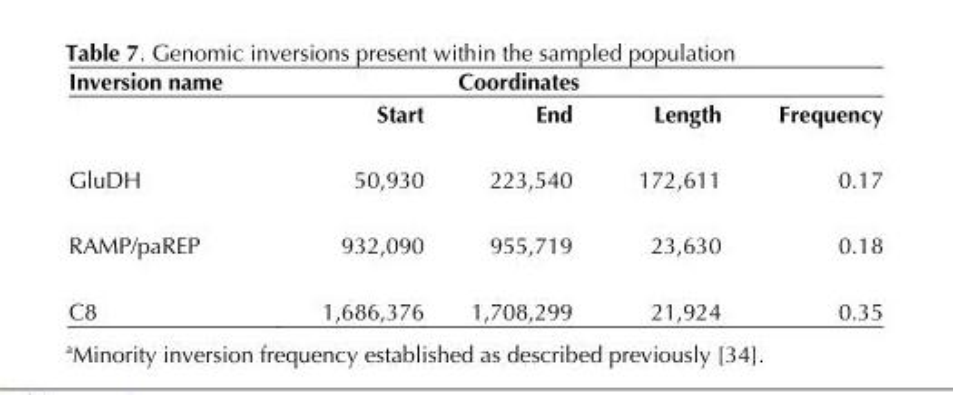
<table><thead><tr><td rowspan="2">Inversion name</td><td colspan="3">Coordinates</td><td rowspan="2">Frequency</td></tr><tr><td>Start</td><td>End</td><td>Length</td></tr></thead><tbody><tr><td>GluDH</td><td>50,930</td><td>223,540</td><td>172,611</td><td>0.17</td></tr><tr><td>RAMP/paREP</td><td>932,090</td><td>955,719</td><td>23,630</td><td>0.18</td></tr><tr><td>C8</td><td>1,686,376</td><td>1,708,299</td><td>21,924</td><td>0.35</td></tr></tbody></table>